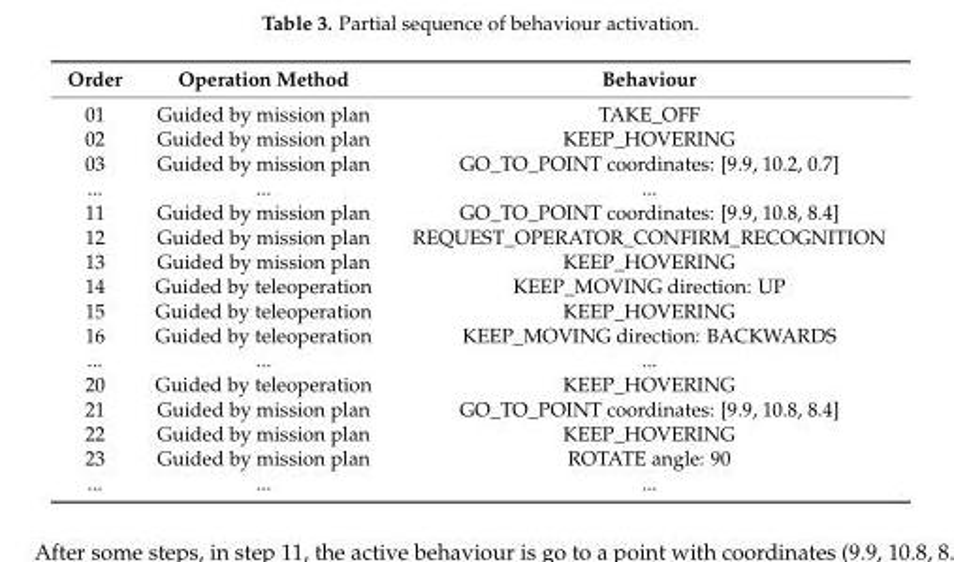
<table><thead><tr><td>Order</td><td>Operation Method</td><td>Behaviour</td></tr></thead><tbody><tr><td>01</td><td>Guided by mission plan</td><td>TAKE_OFF</td></tr><tr><td>02</td><td>Guided by mission plan</td><td>KEEP_HOVERING</td></tr><tr><td>03</td><td>Guided by mission plan</td><td>GO_TO_POINT coordinates: [9.9, 10.2, 0.7]</td></tr><tr><td>...</td><td>...</td><td>...</td></tr><tr><td>11</td><td>Guided by mission plan</td><td>GO_TO_POINT coordinates: [9.9, 10.8, 8.4]</td></tr><tr><td>12</td><td>Guided by mission plan</td><td>REQUEST_OPERATOR_CONFIRM_RECOGNITION</td></tr><tr><td>13</td><td>Guided by mission plan</td><td>KEEP_HOVERING</td></tr><tr><td>14</td><td>Guided by teleoperation</td><td>KEEP_MOVING direction: UP</td></tr><tr><td>15</td><td>Guided by teleoperation</td><td>KEEP_HOVERING</td></tr><tr><td>16</td><td>Guided by teleoperation</td><td>KEEP_MOVING direction: BACKWARDS</td></tr><tr><td>...</td><td>...</td><td>...</td></tr><tr><td>20</td><td>Guided by teleoperation</td><td>KEEP_HOVERING</td></tr><tr><td>21</td><td>Guided by mission plan</td><td>GO_TO_POINT coordinates: [9.9, 10.8, 8.4]</td></tr><tr><td>22</td><td>Guided by mission plan</td><td>KEEP_HOVERING</td></tr><tr><td>23</td><td>Guided by mission plan</td><td>ROTATE angle: 90</td></tr><tr><td>...</td><td>...</td><td>...</td></tr></tbody></table>